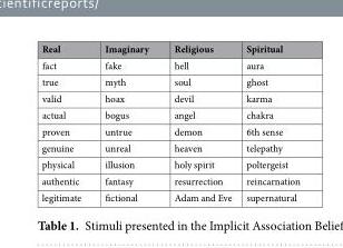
<table><thead><tr><td>Real</td><td>Imaginary</td><td>Religious</td><td>Spiritual</td></tr></thead><tbody><tr><td>fact</td><td>fake</td><td>hell</td><td>aura</td></tr><tr><td>true</td><td>myth</td><td>soul</td><td>ghost</td></tr><tr><td>valid</td><td>hoax</td><td>devil</td><td>karma</td></tr><tr><td>actual</td><td>bogus</td><td>angel</td><td>chakra</td></tr><tr><td>proven</td><td>untrue</td><td>demon</td><td>6th sense</td></tr><tr><td>genuine</td><td>unreal</td><td>heaven</td><td>telepathy</td></tr><tr><td>physical</td><td>illusion</td><td>holy spirit</td><td>poltergeist</td></tr><tr><td>authentic</td><td>fantasy</td><td>resurrection</td><td>reincarnation</td></tr><tr><td>legitimate</td><td>fictional</td><td>Adam and Eve</td><td>supernatural</td></tr></tbody></table>